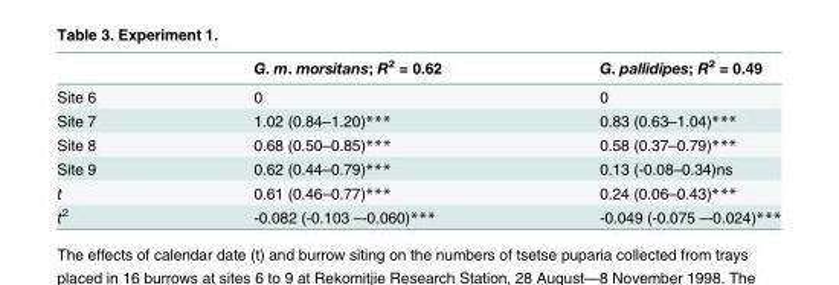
<table><thead><tr><td></td><td>G. m. morsitans; R<sup>2</sup> = 0.62</td><td>G. pallidipes; R<sup>2</sup> = 0.49</td></tr></thead><tbody><tr><td>Site 6</td><td>0</td><td>0</td></tr><tr><td>Site 7</td><td>1.02 (0.84–1.20)***</td><td>0.83 (0.63–1.04)***</td></tr><tr><td>Site 8</td><td>0.68 (0.50–0.85)***</td><td>0.58 (0.37–0.79)***</td></tr><tr><td>Site 9</td><td>0.62 (0.44–0.79)***</td><td>0.13 (-0.08–0.34)ns</td></tr><tr><td>t</td><td>0.61 (0.46–0.77)***</td><td>0.24 (0.06–0.43)***</td></tr><tr><td>t<sup>2</sup></td><td>-0.082 (-0.103 –-0.060)***</td><td>-0.049 (-0.075 –-0.024)***</td></tr></tbody></table>